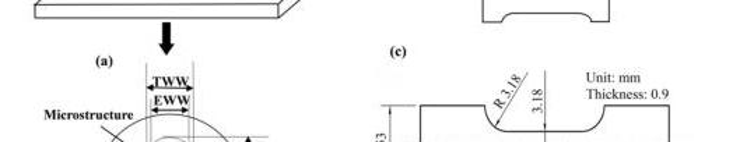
<table><thead><tr><td>Element</td><td>Si</td><td>Mn</td><td>Mg</td><td>Cu</td><td>Fe</td><td>Zn</td><td>Al</td></tr></thead><tbody><tr><td>wt %</td><td>5</td><td>&lt;0.05</td><td>&lt;0.05</td><td>&lt;0.05</td><td>&lt;0.4</td><td>&lt;0.1</td><td>Balance</td></tr></tbody></table>